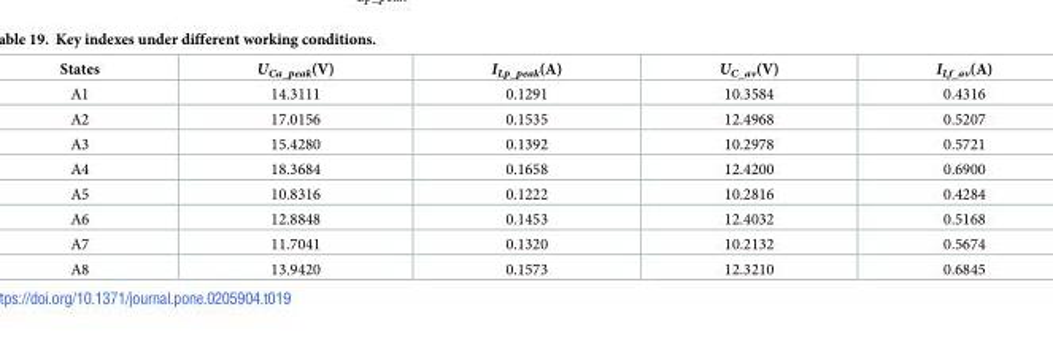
<table><thead><tr><td>States</td><td>U<sub>Ca_peak</sub>(V)</td><td>I<sub>Lp_peak</sub>(A)</td><td>U<sub>C_av</sub>(V)</td><td>I<sub>Lf_av</sub>(A)</td></tr></thead><tbody><tr><td>A1</td><td>14.3111</td><td>0.1291</td><td>10.3584</td><td>0.4316</td></tr><tr><td>A2</td><td>17.0156</td><td>0.1535</td><td>12.4968</td><td>0.5207</td></tr><tr><td>A3</td><td>15.4280</td><td>0.1392</td><td>10.2978</td><td>0.5721</td></tr><tr><td>A4</td><td>18.3684</td><td>0.1658</td><td>12.4200</td><td>0.6900</td></tr><tr><td>A5</td><td>10.8316</td><td>0.1222</td><td>10.2816</td><td>0.4284</td></tr><tr><td>A6</td><td>12.8848</td><td>0.1453</td><td>12.4032</td><td>0.5168</td></tr><tr><td>A7</td><td>11.7041</td><td>0.1320</td><td>10.2132</td><td>0.5674</td></tr><tr><td>A8</td><td>13.9420</td><td>0.1573</td><td>12.3210</td><td>0.6845</td></tr></tbody></table>